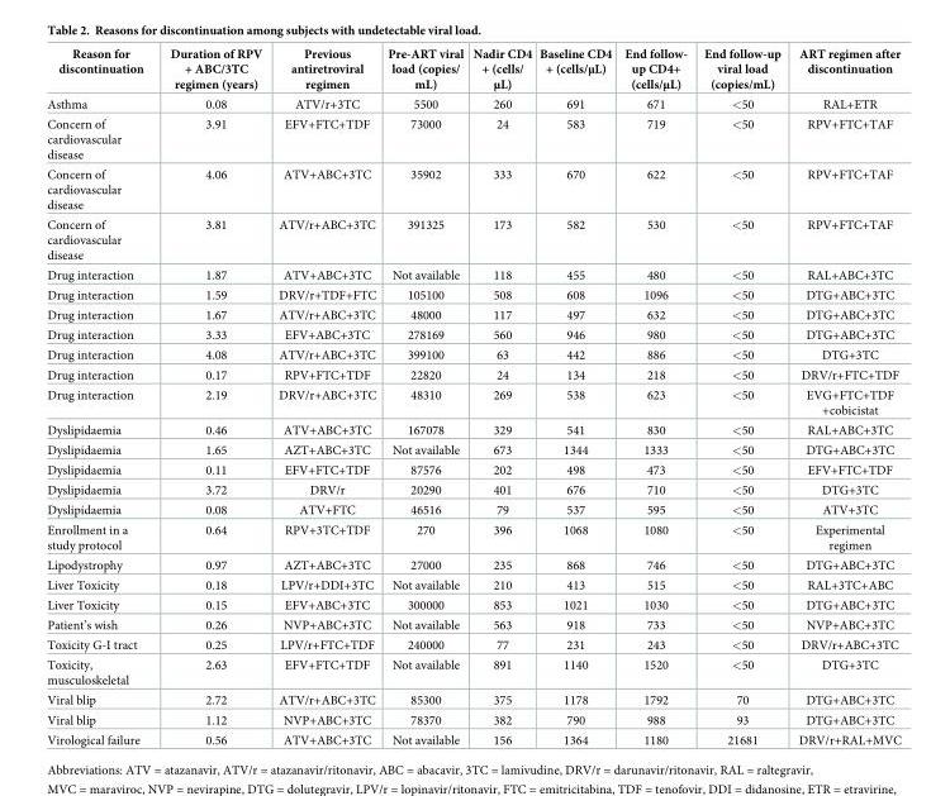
<table><thead><tr><td>Reason for discontinuation</td><td>Duration of RPV + ABC/3TC regimen (years)</td><td>Previous antiretroviral regimen</td><td>Pre-ART viral load (copies/ mL)</td><td>Nadir CD4 + (cells/ μL)</td><td>Baseline CD4 + (cells/μL)</td><td>End follow- up CD4+ (cells/μL)</td><td>End follow-up viral load (copies/mL)</td><td>ART regimen after discontinuation</td></tr></thead><tbody><tr><td>Asthma</td><td>0.08</td><td>ATV/r+3TC</td><td>5500</td><td>260</td><td>691</td><td>671</td><td>&lt;50</td><td>RAL+ETR</td></tr><tr><td>Concern of cardiovascular disease</td><td>3.91</td><td>EFV+FTC+TDF</td><td>73000</td><td>24</td><td>583</td><td>719</td><td>&lt;50</td><td>RPV+FTC+TAF</td></tr><tr><td>Concern of cardiovascular disease</td><td>4.06</td><td>ATV+ABC+3TC</td><td>35902</td><td>333</td><td>670</td><td>622</td><td>&lt;50</td><td>RPV+FTC+TAF</td></tr><tr><td>Concern of cardiovascular disease</td><td>3.81</td><td>ATV/r+ABC+3TC</td><td>391325</td><td>173</td><td>582</td><td>530</td><td>&lt;50</td><td>RPV+FTC+TAF</td></tr><tr><td>Drug interaction</td><td>1.87</td><td>ATV+ABC+3TC</td><td>Not available</td><td>118</td><td>455</td><td>480</td><td>&lt;50</td><td>RAL+ABC+3TC</td></tr><tr><td>Drug interaction</td><td>1.59</td><td>DRV/r+TDF+FTC</td><td>105100</td><td>508</td><td>608</td><td>1096</td><td>&lt;50</td><td>DTG+ABC+3TC</td></tr><tr><td>Drug interaction</td><td>1.67</td><td>ATV/r+ABC+3TC</td><td>48000</td><td>117</td><td>497</td><td>632</td><td>&lt;50</td><td>DTG+ABC+3TC</td></tr><tr><td>Drug interaction</td><td>3.33</td><td>EFV+ABC+3TC</td><td>278169</td><td>560</td><td>946</td><td>980</td><td>&lt;50</td><td>DTG+ABC+3TC</td></tr><tr><td>Drug interaction</td><td>4.08</td><td>ATV/r+ABC+3TC</td><td>399100</td><td>63</td><td>442</td><td>886</td><td>&lt;50</td><td>DTG+3TC</td></tr><tr><td>Drug interaction</td><td>0.17</td><td>RPV+FTC+TDF</td><td>22820</td><td>24</td><td>134</td><td>218</td><td>&lt;50</td><td>DRV/r+FTC+TDF</td></tr><tr><td>Drug interaction</td><td>2.19</td><td>DRV/r+ABC+3TC</td><td>48310</td><td>269</td><td>538</td><td>623</td><td>&lt;50</td><td>EVG+FTC+TDF +cobicistat</td></tr><tr><td>Dyslipidaemia</td><td>0.46</td><td>ATV+ABC+3TC</td><td>167078</td><td>329</td><td>541</td><td>830</td><td>&lt;50</td><td>RAL+ABC+3TC</td></tr><tr><td>Dyslipidaemia</td><td>1.65</td><td>AZT+ABC+3TC</td><td>Not available</td><td>673</td><td>1344</td><td>1333</td><td>&lt;50</td><td>DTG+ABC+3TC</td></tr><tr><td>Dyslipidaemia</td><td>0.11</td><td>EFV+FTC+TDF</td><td>87576</td><td>202</td><td>498</td><td>473</td><td>&lt;50</td><td>EFV+FTC+TDF</td></tr><tr><td>Dyslipidaemia</td><td>3.72</td><td>DRV/r</td><td>20290</td><td>401</td><td>676</td><td>710</td><td>&lt;50</td><td>DTG+3TC</td></tr><tr><td>Dyslipidaemia</td><td>0.08</td><td>ATV+FTC</td><td>46516</td><td>79</td><td>537</td><td>595</td><td>&lt;50</td><td>ATV+3TC</td></tr><tr><td>Enrollment in a study protocol</td><td>0.64</td><td>RPV+3TC+TDF</td><td>270</td><td>396</td><td>1068</td><td>1080</td><td>&lt;50</td><td>Experimental regimen</td></tr><tr><td>Lipodystrophy</td><td>0.97</td><td>AZT+ABC+3TC</td><td>27000</td><td>235</td><td>868</td><td>746</td><td>&lt;50</td><td>DTG+ABC+3TC</td></tr><tr><td>Liver Toxicity</td><td>0.18</td><td>LPV/r+DDI+3TC</td><td>Not available</td><td>210</td><td>413</td><td>515</td><td>&lt;50</td><td>RAL+3TC+ABC</td></tr><tr><td>Liver Toxicity</td><td>0.15</td><td>EFV+ABC+3TC</td><td>300000</td><td>853</td><td>1021</td><td>1030</td><td>&lt;50</td><td>DTG+ABC+3TC</td></tr><tr><td>Patient’s wish</td><td>0.26</td><td>NVP+ABC+3TC</td><td>Not available</td><td>563</td><td>918</td><td>733</td><td>&lt;50</td><td>NVP+ABC+3TC</td></tr><tr><td>Toxicity G-I tract</td><td>0.25</td><td>LPV/r+FTC+TDF</td><td>240000</td><td>77</td><td>231</td><td>243</td><td>&lt;50</td><td>DRV/r+ABC+3TC</td></tr><tr><td>Toxicity, musculoskeletal</td><td>2.63</td><td>EFV+FTC+TDF</td><td>Not available</td><td>891</td><td>1140</td><td>1520</td><td>&lt;50</td><td>DTG+3TC</td></tr><tr><td>Viral blip</td><td>2.72</td><td>ATV/r+ABC+3TC</td><td>85300</td><td>375</td><td>1178</td><td>1792</td><td>70</td><td>DTG+ABC+3TC</td></tr><tr><td>Viral blip</td><td>1.12</td><td>NVP+ABC+3TC</td><td>78370</td><td>382</td><td>790</td><td>988</td><td>93</td><td>DTG+ABC+3TC</td></tr><tr><td>Virological failure</td><td>0.56</td><td>ATV+ABC+3TC</td><td>Not available</td><td>156</td><td>1364</td><td>1180</td><td>21681</td><td>DRV/r+RAL+MVC</td></tr></tbody></table>